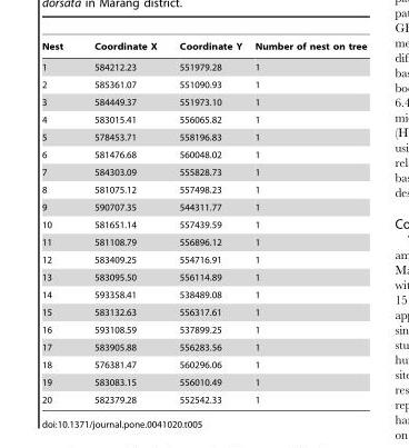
<table><thead><tr><td>Nest</td><td>Coordinate X</td><td>Coordinate Y</td><td>Number of nest on tree</td></tr></thead><tbody><tr><td>1</td><td>584212.23</td><td>551979.28</td><td>1</td></tr><tr><td>2</td><td>585361.07</td><td>551090.93</td><td>1</td></tr><tr><td>3</td><td>584449.37</td><td>551973.10</td><td>1</td></tr><tr><td>4</td><td>583015.41</td><td>556065.82</td><td>1</td></tr><tr><td>5</td><td>578453.71</td><td>558196.83</td><td>1</td></tr><tr><td>6</td><td>581476.68</td><td>560048.02</td><td>1</td></tr><tr><td>7</td><td>584303.09</td><td>555828.73</td><td>1</td></tr><tr><td>8</td><td>581075.12</td><td>557498.23</td><td>1</td></tr><tr><td>9</td><td>590707.35</td><td>544311.77</td><td>1</td></tr><tr><td>10</td><td>581651.14</td><td>557439.59</td><td>1</td></tr><tr><td>11</td><td>581108.79</td><td>556896.12</td><td>1</td></tr><tr><td>12</td><td>583409.25</td><td>554716.91</td><td>1</td></tr><tr><td>13</td><td>583095.50</td><td>556114.89</td><td>1</td></tr><tr><td>14</td><td>593358.41</td><td>538489.08</td><td>1</td></tr><tr><td>15</td><td>583132.63</td><td>556317.61</td><td>1</td></tr><tr><td>16</td><td>593108.59</td><td>537899.25</td><td>1</td></tr><tr><td>17</td><td>583905.88</td><td>556283.56</td><td>1</td></tr><tr><td>18</td><td>576381.47</td><td>560296.06</td><td>1</td></tr><tr><td>19</td><td>583083.15</td><td>556010.49</td><td>1</td></tr><tr><td>20</td><td>582379.28</td><td>552542.33</td><td>1</td></tr></tbody></table>